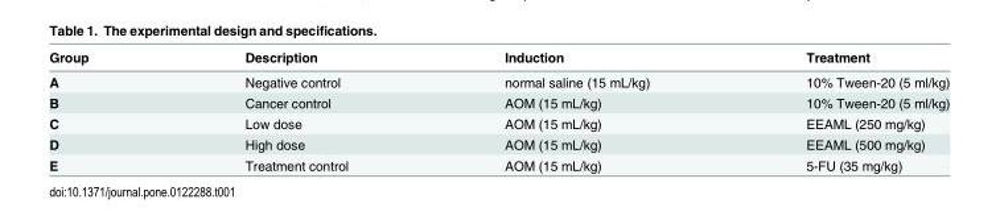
<table><thead><tr><td>Group</td><td>Description</td><td>Induction</td><td>Treatment</td></tr></thead><tbody><tr><td>A</td><td>Negative control</td><td>normal saline (15 mL/kg)</td><td>10% Tween-20 (5 ml/kg)</td></tr><tr><td>B</td><td>Cancer control</td><td>AOM (15 mL/kg)</td><td>10% Tween-20 (5 ml/kg)</td></tr><tr><td>C</td><td>Low dose</td><td>AOM (15 mL/kg)</td><td>EEAML (250 mg/kg)</td></tr><tr><td>D</td><td>High dose</td><td>AOM (15 mL/kg)</td><td>EEAML (500 mg/kg)</td></tr><tr><td>E</td><td>Treatment control</td><td>AOM (15 mL/kg)</td><td>5-FU (35 mg/kg)</td></tr></tbody></table>